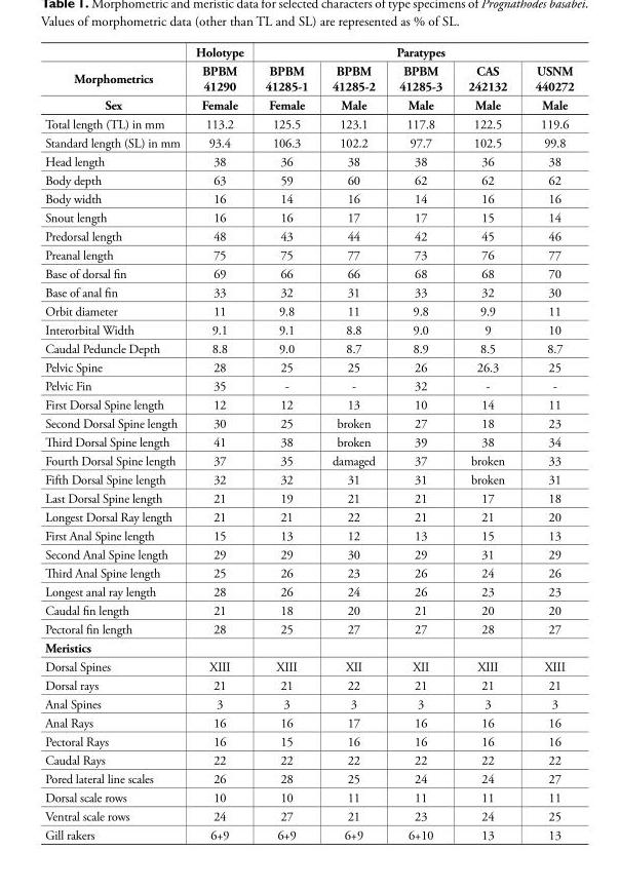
<table><thead><tr><td rowspan="3">Morphometrics Sex</td><td rowspan="3">Holotype BPBM 41290 Female</td><td colspan="5">Paratypes</td></tr><tr><td rowspan="2">BPBM 41285-1 Female</td><td rowspan="2">BPBM 41285-2 Male</td><td rowspan="2">BPBM 41285-3 Male</td><td rowspan="2">CAS 242132 Male</td><td rowspan="2">USNM 440272 Male</td></tr><tr></tr></thead><tbody><tr><td>Total length (TL) in mm</td><td>113.2</td><td>125.5</td><td>123.1</td><td>117.8</td><td>122.5</td><td>119.6</td></tr><tr><td>Standard length (SL) in mm</td><td>93.4</td><td>106.3</td><td>102.2</td><td>97.7</td><td>102.5</td><td>99.8</td></tr><tr><td>Head length</td><td>38</td><td>36</td><td>38</td><td>38</td><td>36</td><td>38</td></tr><tr><td>Body depth</td><td>63</td><td>59</td><td>60</td><td>62</td><td>62</td><td>62</td></tr><tr><td>Body width</td><td>16</td><td>14</td><td>16</td><td>14</td><td>16</td><td>16</td></tr><tr><td>Snout length</td><td>16</td><td>16</td><td>17</td><td>17</td><td>15</td><td>14</td></tr><tr><td>Predorsal length</td><td>48</td><td>43</td><td>44</td><td>42</td><td>45</td><td>46</td></tr><tr><td>Preanal length</td><td>75</td><td>75</td><td>77</td><td>73</td><td>76</td><td>77</td></tr><tr><td>Base of dorsal fin</td><td>69</td><td>66</td><td>66</td><td>68</td><td>68</td><td>70</td></tr><tr><td>Base of anal fin</td><td>33</td><td>32</td><td>31</td><td>33</td><td>32</td><td>30</td></tr><tr><td>Orbit diameter</td><td>11</td><td>9.8</td><td>11</td><td>9.8</td><td>9.9</td><td>11</td></tr><tr><td>Interorbital Width</td><td>9.1</td><td>9.1</td><td>8.8</td><td>9.0</td><td>9</td><td>10</td></tr><tr><td>Caudal Peduncle Depth</td><td>8.8</td><td>9.0</td><td>8.7</td><td>8.9</td><td>8.5</td><td>8.7</td></tr><tr><td>Pelvic Spine</td><td>28</td><td>25</td><td>25</td><td>26</td><td>26.3</td><td>25</td></tr><tr><td>Pelvic Fin</td><td>35</td><td>-</td><td>-</td><td>32</td><td>-</td><td>-</td></tr><tr><td>First Dorsal Spine length</td><td>12</td><td>12</td><td>13</td><td>10</td><td>14</td><td>11</td></tr><tr><td>Second Dorsal Spine length</td><td>30</td><td>25</td><td>broken</td><td>27</td><td>18</td><td>23</td></tr><tr><td>Third Dorsal Spine length</td><td>41</td><td>38</td><td>broken</td><td>39</td><td>38</td><td>34</td></tr><tr><td>Fourth Dorsal Spine length</td><td>37</td><td>35</td><td>damaged</td><td>37</td><td>broken</td><td>33</td></tr><tr><td>Fifth Dorsal Spine length</td><td>32</td><td>32</td><td>31</td><td>31</td><td>broken</td><td>31</td></tr><tr><td>Last Dorsal Spine length</td><td>21</td><td>19</td><td>21</td><td>21</td><td>17</td><td>18</td></tr><tr><td>Longest Dorsal Ray length</td><td>21</td><td>21</td><td>22</td><td>21</td><td>21</td><td>20</td></tr><tr><td>First Anal Spine length</td><td>15</td><td>13</td><td>12</td><td>13</td><td>15</td><td>13</td></tr><tr><td>Second Anal Spine length</td><td>29</td><td>29</td><td>30</td><td>29</td><td>31</td><td>29</td></tr><tr><td>Third Anal Spine length</td><td>25</td><td>26</td><td>23</td><td>26</td><td>24</td><td>26</td></tr><tr><td>Longest anal ray length</td><td>28</td><td>26</td><td>24</td><td>26</td><td>23</td><td>23</td></tr><tr><td>Caudal fin length</td><td>21</td><td>18</td><td>20</td><td>21</td><td>20</td><td>20</td></tr><tr><td>Pectoral fin length</td><td>28</td><td>25</td><td>27</td><td>27</td><td>28</td><td>27</td></tr><tr><td colspan="7">Meristics</td></tr><tr><td>Dorsal Spines</td><td>XIII</td><td>XIII</td><td>XII</td><td>XII</td><td>XIII</td><td>XIII</td></tr><tr><td>Dorsal rays</td><td>21</td><td>21</td><td>22</td><td>21</td><td>21</td><td>21</td></tr><tr><td>Anal Spines</td><td>3</td><td>3</td><td>3</td><td>3</td><td>3</td><td>3</td></tr><tr><td>Anal Rays</td><td>16</td><td>16</td><td>17</td><td>16</td><td>16</td><td>16</td></tr><tr><td>Pectoral Rays</td><td>16</td><td>15</td><td>16</td><td>16</td><td>16</td><td>16</td></tr><tr><td>Caudal Rays</td><td>22</td><td>22</td><td>22</td><td>22</td><td>22</td><td>22</td></tr><tr><td>Pored lateral line scales</td><td>26</td><td>28</td><td>25</td><td>24</td><td>24</td><td>27</td></tr><tr><td>Dorsal scale rows</td><td>10</td><td>10</td><td>11</td><td>11</td><td>11</td><td>11</td></tr><tr><td>Ventral scale rows</td><td>24</td><td>27</td><td>21</td><td>23</td><td>24</td><td>25</td></tr><tr><td>Gill rakers</td><td>6+9</td><td>6+9</td><td>6+9</td><td>6+10</td><td>13</td><td>13</td></tr></tbody></table>